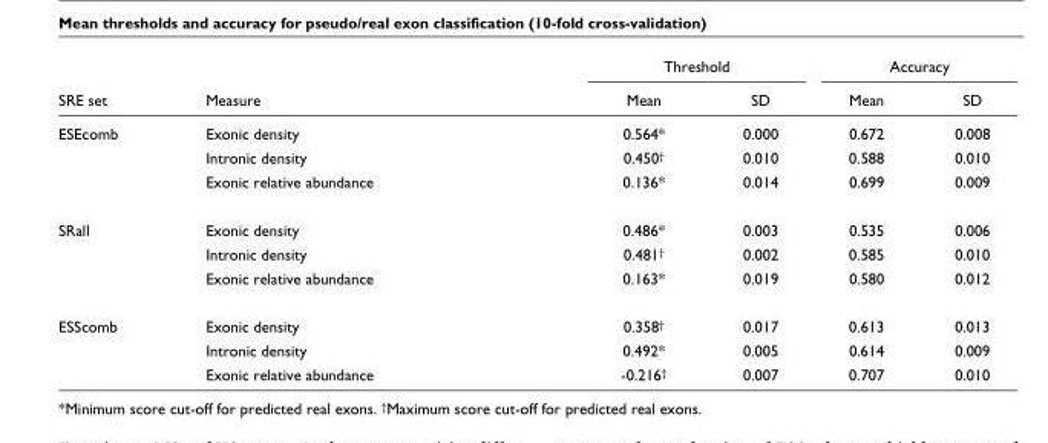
<table><thead><tr><td rowspan="2">SRE set</td><td rowspan="2">Measure</td><td colspan="2">Threshold</td><td colspan="2">Accuracy</td></tr><tr><td>Mean</td><td>SD</td><td>Mean</td><td>SD</td></tr></thead><tbody><tr><td rowspan="3">ESEcomb</td><td>Exonic density</td><td>0.564*</td><td>0.000</td><td>0.672</td><td>0.008</td></tr><tr><td>Intronic density</td><td>0.450<sup>†</sup></td><td>0.010</td><td>0.588</td><td>0.010</td></tr><tr><td>Exonic relative abundance</td><td>0.136*</td><td>0.014</td><td>0.699</td><td>0.009</td></tr><tr><td rowspan="3">SRall</td><td>Exonic density</td><td>0.486*</td><td>0.003</td><td>0.535</td><td>0.006</td></tr><tr><td>Intronic density</td><td>0.481<sup>†</sup></td><td>0.002</td><td>0.585</td><td>0.010</td></tr><tr><td>Exonic relative abundance</td><td>0.163*</td><td>0.019</td><td>0.580</td><td>0.012</td></tr><tr><td rowspan="3">ESScomb</td><td>Exonic density</td><td>0.358<sup>†</sup></td><td>0.017</td><td>0.613</td><td>0.013</td></tr><tr><td>Intronic density</td><td>0.492*</td><td>0.005</td><td>0.614</td><td>0.009</td></tr><tr><td>Exonic relative abundance</td><td>-0.216<sup>†</sup></td><td>0.007</td><td>0.707</td><td>0.010</td></tr></tbody></table>